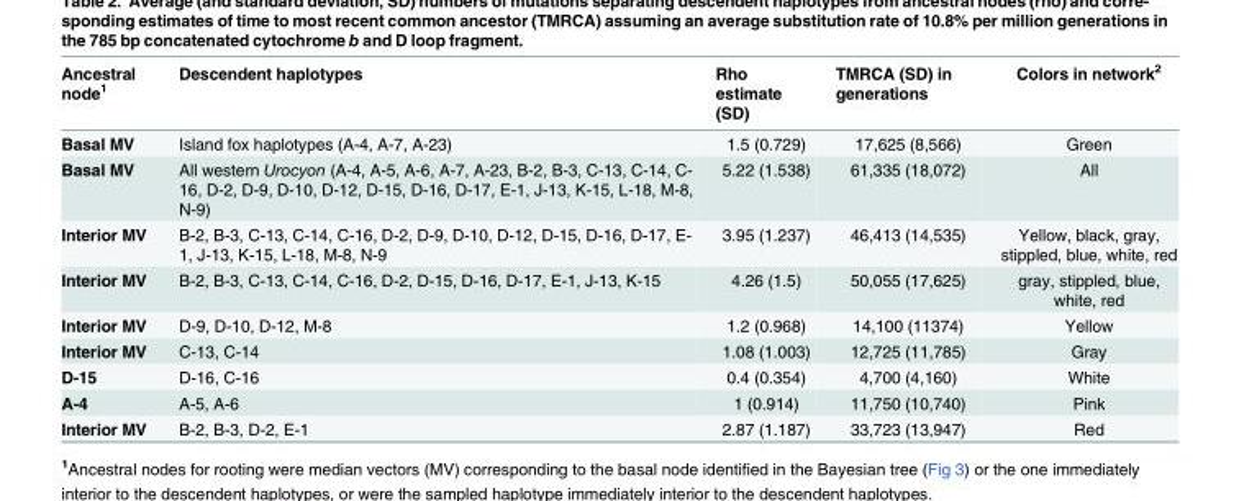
<table><thead><tr><td>Ancestral node<sup>1</sup></td><td>Descendent haplotypes</td><td>Rho estimate (SD)</td><td>TMRCA (SD) in generations</td><td>Colors in network<sup>2</sup></td></tr></thead><tbody><tr><td>Basal MV</td><td>Island fox haplotypes (A-4, A-7, A-23)</td><td>1.5 (0.729)</td><td>17,625 (8,566)</td><td>Green</td></tr><tr><td>Basal MV</td><td>All western Urocyon (A-4, A-5, A-6, A-7, A-23, B-2, B-3, C-13, C-14, C- 16, D-2, D-9, D-10, D-12, D-15, D-16, D-17, E-1, J-13, K-15, L-18, M-8, N-9)</td><td>5.22 (1.538)</td><td>61,335 (18,072)</td><td>All</td></tr><tr><td>Interior MV</td><td>B-2, B-3, C-13, C-14, C-16, D-2, D-9, D-10, D-12, D-15, D-16, D-17, E- 1, J-13, K-15, L-18, M-8, N-9</td><td>3.95 (1.237)</td><td>46,413 (14,535)</td><td>Yellow, black, gray, stippled, blue, white, red</td></tr><tr><td>Interior MV</td><td>B-2, B-3, C-13, C-14, C-16, D-2, D-15, D-16, D-17, E-1, J-13, K-15</td><td>4.26 (1.5)</td><td>50,055 (17,625)</td><td>gray, stippled, blue, white, red</td></tr><tr><td>Interior MV</td><td>D-9, D-10, D-12, M-8</td><td>1.2 (0.968)</td><td>14,100 (11374)</td><td>Yellow</td></tr><tr><td>Interior MV</td><td>C-13, C-14</td><td>1.08 (1.003)</td><td>12,725 (11,785)</td><td>Gray</td></tr><tr><td>D-15</td><td>D-16, C-16</td><td>0.4 (0.354)</td><td>4,700 (4,160)</td><td>White</td></tr><tr><td>A-4</td><td>A-5, A-6</td><td>1 (0.914)</td><td>11,750 (10,740)</td><td>Pink</td></tr><tr><td>Interior MV</td><td>B-2, B-3, D-2, E-1</td><td>2.87 (1.187)</td><td>33,723 (13,947)</td><td>Red</td></tr></tbody></table>